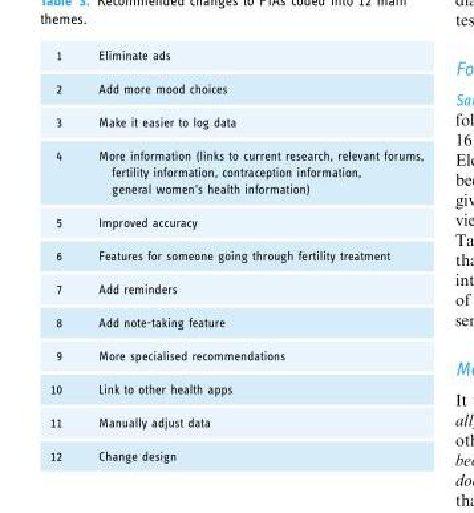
<table><tbody><tr><td>1</td><td>Eliminate ads</td></tr><tr><td>2</td><td>Add more mood choices</td></tr><tr><td>3</td><td>Make it easier to log data</td></tr><tr><td>4</td><td>More information (links to current research, relevant forums, fertility information, contraception information, general women’s health information)</td></tr><tr><td>5</td><td>Improved accuracy</td></tr><tr><td>6</td><td>Features for someone going through fertility treatment</td></tr><tr><td>7</td><td>Add reminders</td></tr><tr><td>8</td><td>Add note-taking feature</td></tr><tr><td>9</td><td>More specialised recommendations</td></tr><tr><td>10</td><td>Link to other health apps</td></tr><tr><td>11</td><td>Manually adjust data</td></tr><tr><td>12</td><td>Change design</td></tr></tbody></table>